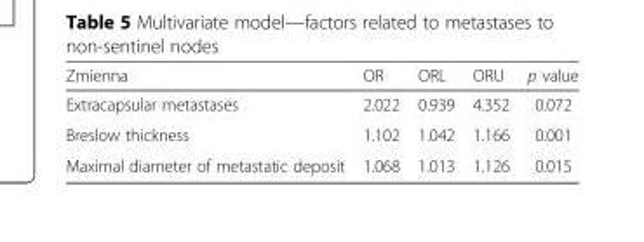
<table><thead><tr><td>Zmienna</td><td>OR</td><td>ORL</td><td>ORU</td><td>p value</td></tr></thead><tbody><tr><td>Extracapsular metastases</td><td>2.022</td><td>0.939</td><td>4.352</td><td>0.072</td></tr><tr><td>Breslow thickness</td><td>1.102</td><td>1.042</td><td>1.166</td><td>0.001</td></tr><tr><td>Maximal diameter of metastatic deposit</td><td>1.068</td><td>1.013</td><td>1.126</td><td>0.015</td></tr></tbody></table>